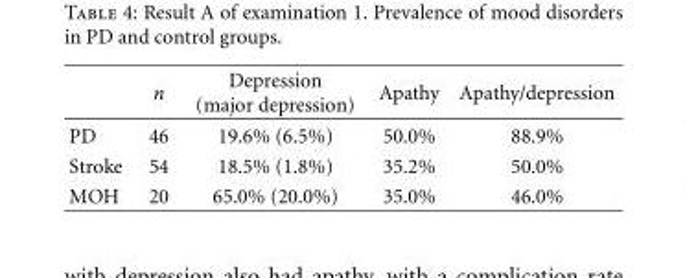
<table><thead><tr><td></td><td>n</td><td>Depression (major depression)</td><td>Apathy</td><td>Apathy/depression</td></tr></thead><tbody><tr><td>PD</td><td>46</td><td>19.6% (6.5%)</td><td>50.0%</td><td>88.9%</td></tr><tr><td>Stroke</td><td>54</td><td>18.5% (1.8%)</td><td>35.2%</td><td>50.0%</td></tr><tr><td>MOH</td><td>20</td><td>65.0% (20.0%)</td><td>35.0%</td><td>46.0%</td></tr></tbody></table>